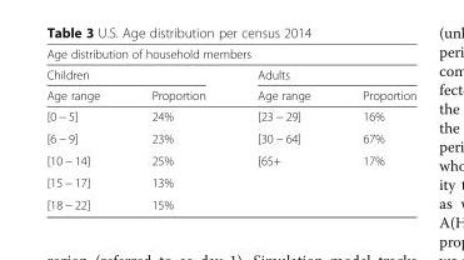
<table><thead><tr><td colspan="4">Age distribution of household members</td></tr><tr><td colspan="2">Children</td><td colspan="2">Adults</td></tr><tr><td>Age range</td><td>Proportion</td><td>Age range</td><td>Proportion</td></tr></thead><tbody><tr><td>[0 − 5]</td><td>24%</td><td>[23 − 29]</td><td>16%</td></tr><tr><td>[6 − 9]</td><td>23%</td><td>[30 − 64]</td><td>67%</td></tr><tr><td>[10 − 14]</td><td>25%</td><td rowspan="3">[65+</td><td rowspan="3">17%</td></tr><tr><td>[15 − 17]</td><td>13%</td></tr><tr><td>[18 − 22]</td><td>15%</td></tr></tbody></table>